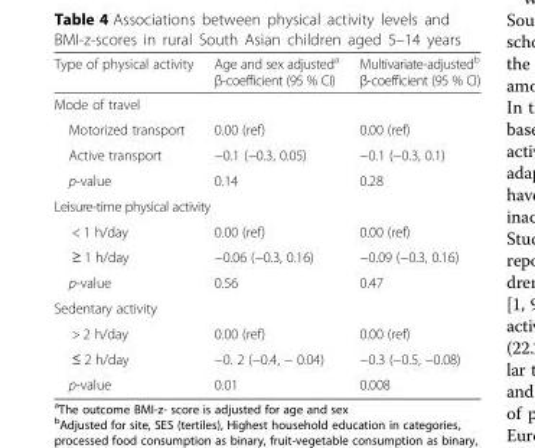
<table><thead><tr><td>Type of physical activity</td><td>Age and sex adjusted<sup>a</sup> β-coefficient (95 % CI)</td><td>Multivariate-adjusted<sup>b</sup> β-coefficient (95 % CI)</td></tr></thead><tbody><tr><td colspan="3">Mode of travel</td></tr><tr><td>Motorized transport</td><td>0.00 (ref)</td><td>0.00 (ref)</td></tr><tr><td>Active transport</td><td>−0.1 (−0.3, 0.05)</td><td>−0.1 (−0.3, 0.1)</td></tr><tr><td>p-value</td><td>0.14</td><td>0.28</td></tr><tr><td colspan="3">Leisure-time physical activity</td></tr><tr><td>&lt; 1 h/day</td><td>0.00 (ref)</td><td>0.00 (ref)</td></tr><tr><td>≥ 1 h/day</td><td>−0.06 (−0.3, 0.16)</td><td>−0.09 (−0.3, 0.16)</td></tr><tr><td>p-value</td><td>0.56</td><td>0.47</td></tr><tr><td colspan="3">Sedentary activity</td></tr><tr><td>&gt; 2 h/day</td><td>0.00 (ref)</td><td>0.00 (ref)</td></tr><tr><td>≤ 2 h/day</td><td>−0. 2 (−0.4, − 0.04)</td><td>−0.3 (−0.5, −0.08)</td></tr><tr><td>p-value</td><td>0.01</td><td>0.008</td></tr></tbody></table>